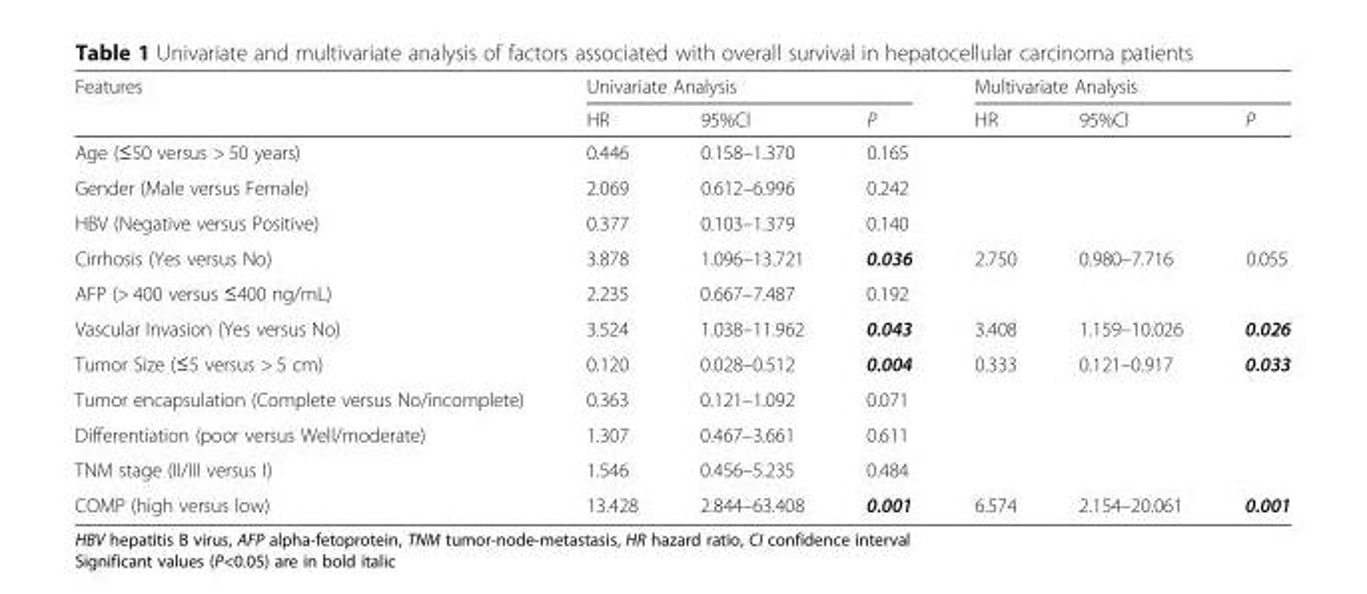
<table><thead><tr><td rowspan="2">Features</td><td colspan="3">Univariate Analysis</td><td colspan="3">Multivariate Analysis</td></tr><tr><td>HR</td><td>95%Cl</td><td>P</td><td>HR</td><td>95%Cl</td><td>P</td></tr></thead><tbody><tr><td>Age (≤50 versus &gt; 50 years)</td><td>0.446</td><td>0.158–1.370</td><td>0.165</td><td></td><td></td><td></td></tr><tr><td>Gender (Male versus Female)</td><td>2.069</td><td>0.612–6.996</td><td>0.242</td><td></td><td></td><td></td></tr><tr><td>HBV (Negative versus Positive)</td><td>0.377</td><td>0.103–1.379</td><td>0.140</td><td></td><td></td><td></td></tr><tr><td>Cirrhosis (Yes versus No)</td><td>3.878</td><td>1.096–13.721</td><td>0.036</td><td>2.750</td><td>0.980–7.716</td><td>0.055</td></tr><tr><td>AFP (&gt; 400 versus ≤400 ng/mL)</td><td>2.235</td><td>0.667–7.487</td><td>0.192</td><td></td><td></td><td></td></tr><tr><td>Vascular Invasion (Yes versus No)</td><td>3.524</td><td>1.038–11.962</td><td>0.043</td><td>3.408</td><td>1.159–10.026</td><td>0.026</td></tr><tr><td>Tumor Size (≤5 versus &gt; 5 cm)</td><td>0.120</td><td>0.028–0.512</td><td>0.004</td><td>0.333</td><td>0.121–0.917</td><td>0.033</td></tr><tr><td>Tumor encapsulation (Complete versus No/incomplete)</td><td>0.363</td><td>0.121–1.092</td><td>0.071</td><td></td><td></td><td></td></tr><tr><td>Differentiation (poor versus Well/moderate)</td><td>1.307</td><td>0.467–3.661</td><td>0.611</td><td></td><td></td><td></td></tr><tr><td>TNM stage (II/III versus I)</td><td>1.546</td><td>0.456–5.235</td><td>0.484</td><td></td><td></td><td></td></tr><tr><td>COMP (high versus low)</td><td>13.428</td><td>2.844–63.408</td><td>0.001</td><td>6.574</td><td>2.154–20.061</td><td>0.001</td></tr></tbody></table>